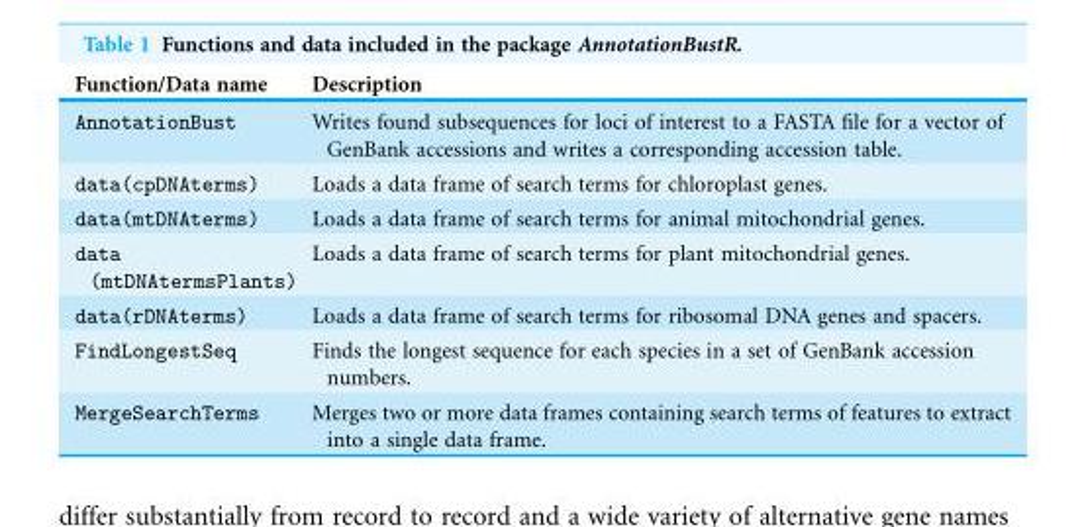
<table><thead><tr><td>Function/Data name</td><td>Description</td></tr></thead><tbody><tr><td>AnnotationBust</td><td>Writes found subsequences for loci of interest to a FASTA file for a vector of GenBank accessions and writes a corresponding accession table.</td></tr><tr><td>data(cpDNAterms)</td><td>Loads a data frame of search terms for chloroplast genes.</td></tr><tr><td>data(mtDNAterms)</td><td>Loads a data frame of search terms for animal mitochondrial genes.</td></tr><tr><td>data (mtDNAtermsPlants)</td><td>Loads a data frame of search terms for plant mitochondrial genes.</td></tr><tr><td>data(rDNAterms)</td><td>Loads a data frame of search terms for ribosomal DNA genes and spacers.</td></tr><tr><td>FindLongestSeq</td><td>Finds the longest sequence for each species in a set of GenBank accession numbers.</td></tr><tr><td>MergeSearchTerms</td><td>Merges two or more data frames containing search terms of features to extract into a single data frame.</td></tr></tbody></table>